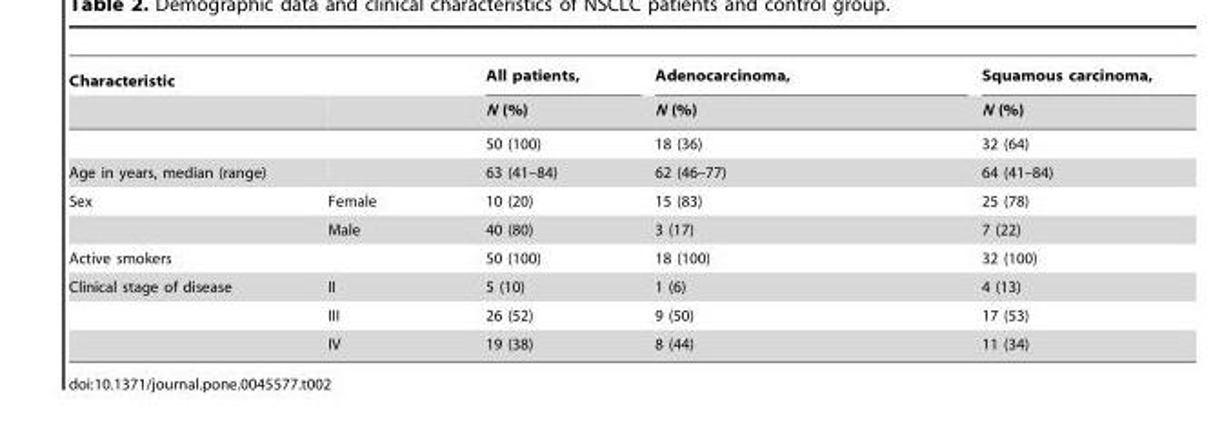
<table><thead><tr><td rowspan="2">Characteristic</td><td rowspan="2"></td><td rowspan="2">All patients, N (%)</td><td rowspan="2">Adenocarcinoma, N (%)</td><td rowspan="2">Squamous carcinoma, N (%)</td></tr><tr></tr></thead><tbody><tr><td></td><td></td><td>50 (100)</td><td>18 (36)</td><td>32 (64)</td></tr><tr><td>Age in years, median (range)</td><td></td><td>63 (41–84)</td><td>62 (46–77)</td><td>64 (41–84)</td></tr><tr><td rowspan="2">Sex</td><td>Female</td><td>10 (20)</td><td>15 (83)</td><td>25 (78)</td></tr><tr><td>Male</td><td>40 (80)</td><td>3 (17)</td><td>7 (22)</td></tr><tr><td>Active smokers</td><td></td><td>50 (100)</td><td>18 (100)</td><td>32 (100)</td></tr><tr><td rowspan="3">Clinical stage of disease</td><td>II</td><td>5 (10)</td><td>1 (6)</td><td>4 (13)</td></tr><tr><td>III</td><td>26 (52)</td><td>9 (50)</td><td>17 (53)</td></tr><tr><td>IV</td><td>19 (38)</td><td>8 (44)</td><td>11 (34)</td></tr></tbody></table>